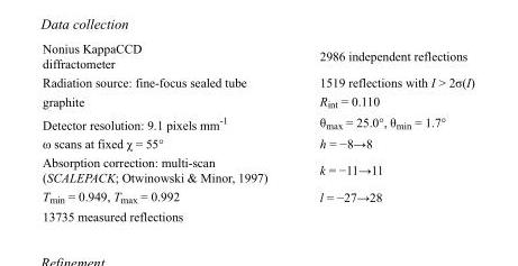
<table><tbody><tr><td>Nonius KappaCCD diffractometer</td><td>2986 independent reflections</td></tr><tr><td>Radiation source: fine-focus sealed tube</td><td>1519 reflections with I &gt; 2σ(I)</td></tr><tr><td>graphite</td><td>R<sub>int</sub> = 0.110</td></tr><tr><td>Detector resolution: 9.1 pixels mm<sup>-1</sup></td><td>θ<sub>max</sub> = 25.0°, θ<sub>min</sub> = 1.7°</td></tr><tr><td>ω scans at fixed χ = 55°</td><td>h = −8→8</td></tr><tr><td>Absorption correction: multi-scan (SCALEPACK; Otwinowski &amp; Minor, 1997)</td><td>k = −11→11</td></tr><tr><td>T<sub>min</sub> = 0.949, T<sub>max</sub> = 0.992</td><td>l = −27→28</td></tr><tr><td>13735 measured reflections</td><td></td></tr></tbody></table>